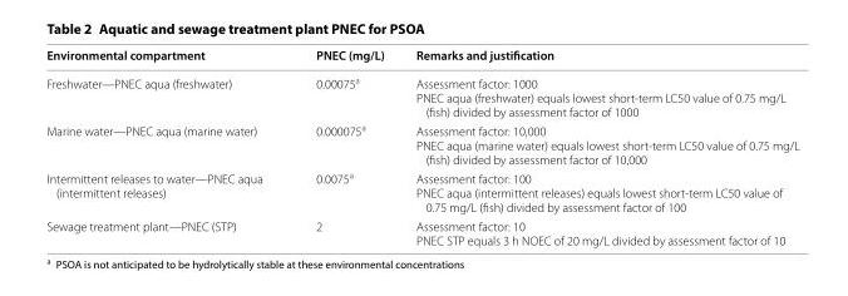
<table><thead><tr><td>Environmental compartment</td><td>PNEC (mg/L)</td><td>Remarks and justification</td></tr></thead><tbody><tr><td>Freshwater—PNEC aqua (freshwater)</td><td>0.00075<sup>a</sup></td><td>Assessment factor: 1000 PNEC aqua (freshwater) equals lowest short-term LC50 value of 0.75 mg/L (fish) divided by assessment factor of 1000</td></tr><tr><td>Marine water—PNEC aqua (marine water)</td><td>0.000075<sup>a</sup></td><td>Assessment factor: 10,000 PNEC aqua (marine water) equals lowest short-term LC50 value of 0.75 mg/L (fish) divided by assessment factor of 10,000</td></tr><tr><td>Intermittent releases to water—PNEC aqua (intermittent releases)</td><td>0.0075<sup>a</sup></td><td>Assessment factor: 100 PNEC aqua (intermittent releases) equals lowest short-term LC50 value of 0.75 mg/L (fish) divided by assessment factor of 100</td></tr><tr><td>Sewage treatment plant—PNEC (STP)</td><td>2</td><td>Assessment factor: 10 PNEC STP equals 3 h NOEC of 20 mg/L divided by assessment factor of 10</td></tr></tbody></table>